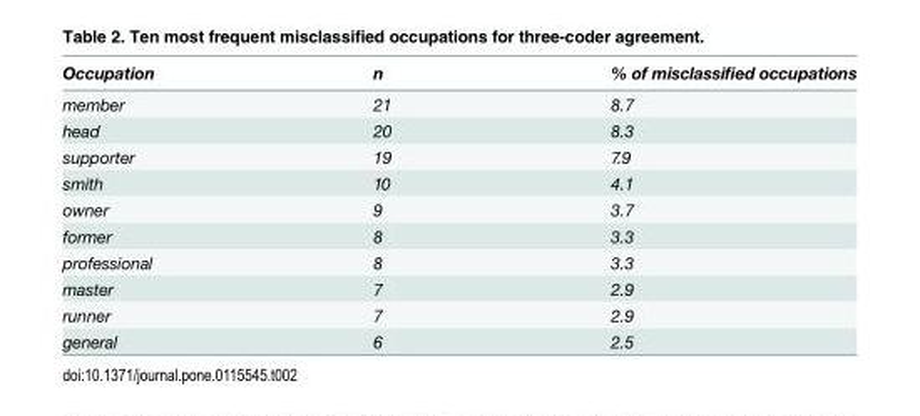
<table><thead><tr><td>Occupation</td><td>n</td><td>% of misclassified occupations</td></tr></thead><tbody><tr><td>member</td><td>21</td><td>8.7</td></tr><tr><td>head</td><td>20</td><td>8.3</td></tr><tr><td>supporter</td><td>19</td><td>7.9</td></tr><tr><td>smith</td><td>10</td><td>4.1</td></tr><tr><td>owner</td><td>9</td><td>3.7</td></tr><tr><td>former</td><td>8</td><td>3.3</td></tr><tr><td>professional</td><td>8</td><td>3.3</td></tr><tr><td>master</td><td>7</td><td>2.9</td></tr><tr><td>runner</td><td>7</td><td>2.9</td></tr><tr><td>general</td><td>6</td><td>2.5</td></tr></tbody></table>